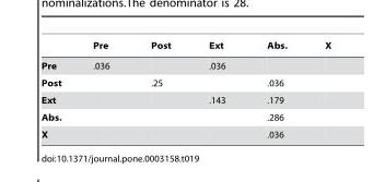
<table><thead><tr><td></td><td>Pre</td><td>Post</td><td>Ext</td><td>Abs.</td><td>X</td></tr></thead><tbody><tr><td>Pre</td><td>.036</td><td></td><td>.036</td><td></td><td></td></tr><tr><td>Post</td><td></td><td>.25</td><td></td><td>.036</td><td></td></tr><tr><td>Ext</td><td></td><td></td><td>.143</td><td>.179</td><td></td></tr><tr><td>Abs.</td><td></td><td></td><td></td><td>.286</td><td></td></tr><tr><td>X</td><td></td><td></td><td></td><td>.036</td><td></td></tr></tbody></table>